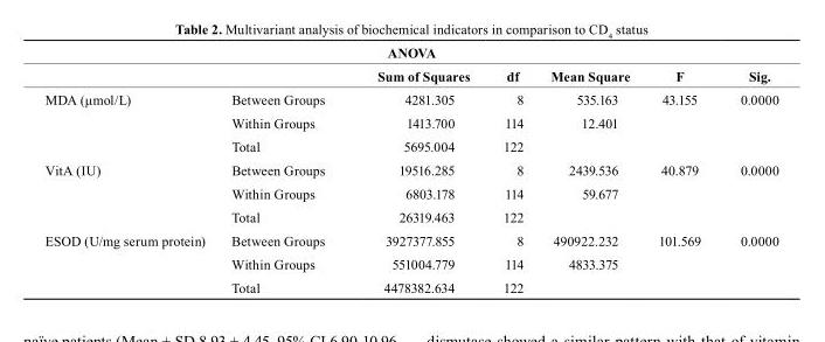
<table><thead><tr><td colspan="7">ANOVA</td></tr><tr><td></td><td></td><td>Sum of Squares</td><td>df</td><td>Mean Square</td><td>F</td><td>sig.</td></tr></thead><tbody><tr><td rowspan="3">MDA (μmol/L)</td><td>Between Groups</td><td>4281.305</td><td>8</td><td>535.163</td><td>43.155</td><td>0.0000</td></tr><tr><td>Within Groups</td><td>1413.700</td><td>114</td><td>12.401</td><td></td><td></td></tr><tr><td>Total</td><td>5695.004</td><td>122</td><td></td><td></td><td></td></tr><tr><td rowspan="3">VitA (IU)</td><td>Between Groups</td><td>19516.285</td><td>8</td><td>2439.536</td><td>40.879</td><td>0.0000</td></tr><tr><td>Within Groups</td><td>6803.178</td><td>114</td><td>59.677</td><td></td><td></td></tr><tr><td>Total</td><td>26319.463</td><td>122</td><td></td><td></td><td></td></tr><tr><td rowspan="3">ESOD (U/mg serum protein)</td><td>Between Groups</td><td>3927377.855</td><td>8</td><td>490922.232</td><td>101.569</td><td>0.0000</td></tr><tr><td>Within Groups</td><td>551004.779</td><td>114</td><td>4833.375</td><td></td><td></td></tr><tr><td>Total</td><td>4478382.634</td><td>122</td><td></td><td></td><td></td></tr></tbody></table>